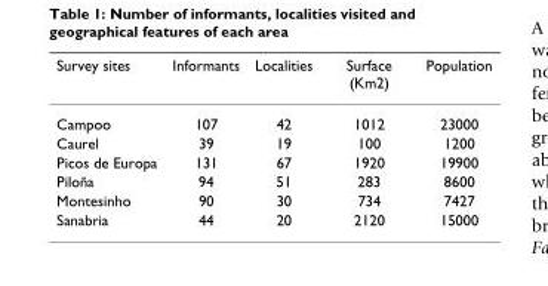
<table><thead><tr><td>Survey sites</td><td>Informants</td><td>Localities</td><td>Surface (Km2)</td><td>Population</td></tr></thead><tbody><tr><td>Campoo</td><td>107</td><td>42</td><td>1012</td><td>23000</td></tr><tr><td>Caurel</td><td>39</td><td>19</td><td>100</td><td>1200</td></tr><tr><td>Picos de Europa</td><td>131</td><td>67</td><td>1920</td><td>19900</td></tr><tr><td>Piloña</td><td>94</td><td>51</td><td>283</td><td>8600</td></tr><tr><td>Montesinho</td><td>90</td><td>30</td><td>734</td><td>7427</td></tr><tr><td>Sanabria</td><td>44</td><td>20</td><td>2120</td><td>15000</td></tr></tbody></table>